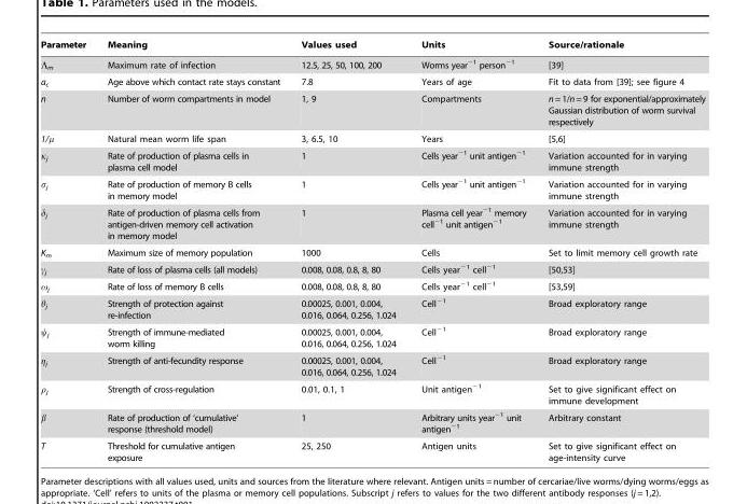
<table><thead><tr><td>Parameter</td><td>Meaning</td><td>Values used</td><td>Units</td><td>Source/rationale</td></tr></thead><tbody><tr><td>Λ<sub>m</sub></td><td>Maximum rate of infection</td><td>12.5, 25, 50, 100, 200</td><td>Worms year<sup>−1</sup> person<sup>−1</sup></td><td>[39]</td></tr><tr><td>a<sub>c</sub></td><td>Age above which contact rate stays constant</td><td>7.8</td><td>Years of age</td><td>Fit to data from [39]; see figure 4</td></tr><tr><td>n</td><td>Number of worm compartments in model</td><td>1, 9</td><td>Compartments</td><td>n=1/n=9 for exponential/approximately Gaussian distribution of worm survival respectively</td></tr><tr><td>1/μ</td><td>Natural mean worm life span</td><td>3, 6.5, 10</td><td>Years</td><td>[5,6]</td></tr><tr><td>κ<sub>j</sub></td><td>Rate of production of plasma cells in plasma cell model</td><td>1</td><td>Cells year<sup>−1</sup> unit antigen<sup>−1</sup></td><td>Variation accounted for in varying immune strength</td></tr><tr><td>σ<sub>j</sub></td><td>Rate of production of memory B cells in memory model</td><td>1</td><td>Cells year<sup>−1</sup> unit antigen<sup>−1</sup></td><td>Variation accounted for in varying immune strength</td></tr><tr><td>δ<sub>j</sub></td><td>Rate of production of plasma cells from antigen-driven memory cell activation in memory model</td><td>1</td><td>Plasma cell year<sup>−1</sup> memory cell<sup>−1</sup> unit antigen<sup>−1</sup></td><td>Variation accounted for in varying immune strength</td></tr><tr><td>K<sub>m</sub></td><td>Maximum size of memory population</td><td>1000</td><td>Cells</td><td>Set to limit memory cell growth rate</td></tr><tr><td>γ<sub>j</sub></td><td>Rate of loss of plasma cells (all models)</td><td>0.008, 0.08, 0.8, 8, 80</td><td>Cells year<sup>−1</sup> cell<sup>−1</sup></td><td>[50,53]</td></tr><tr><td>ω<sub>j</sub></td><td>Rate of loss of memory B cells</td><td>0.008, 0.08, 0.8, 8, 80</td><td>Cells year<sup>−1</sup> cell<sup>−1</sup></td><td>[53,59]</td></tr><tr><td>θ<sub>j</sub></td><td>Strength of protection against re-infection</td><td>0.00025, 0.001, 0.004, 0.016, 0.064, 0.256, 1.024</td><td>Cell<sup>−1</sup></td><td>Broad exploratory range</td></tr><tr><td>ψ<sub>j</sub></td><td>Strength of immune-mediated worm killing</td><td>0.00025, 0.001, 0.004, 0.016, 0.064, 0.256, 1.024</td><td>Cell<sup>−1</sup></td><td>Broad exploratory range</td></tr><tr><td>η<sub>j</sub></td><td>Strength of anti-fecundity response</td><td>0.00025, 0.001, 0.004, 0.016, 0.064, 0.256, 1.024</td><td>Cell<sup>−1</sup></td><td>Broad exploratory range</td></tr><tr><td>ρ<sub>j</sub></td><td>Strength of cross-regulation</td><td>0.01, 0.1, 1</td><td>Unit antigen<sup>−1</sup></td><td>Set to give significant effect on immune development</td></tr><tr><td>β</td><td>Rate of production of ‘cumulative’ response (threshold model)</td><td>1</td><td>Arbitrary units year<sup>−1</sup> unit antigen<sup>−1</sup></td><td>Arbitrary constant</td></tr><tr><td>T</td><td>Threshold for cumulative antigen exposure</td><td>25, 250</td><td>Antigen units</td><td>Set to give significant effect on age-intensity curve</td></tr></tbody></table>